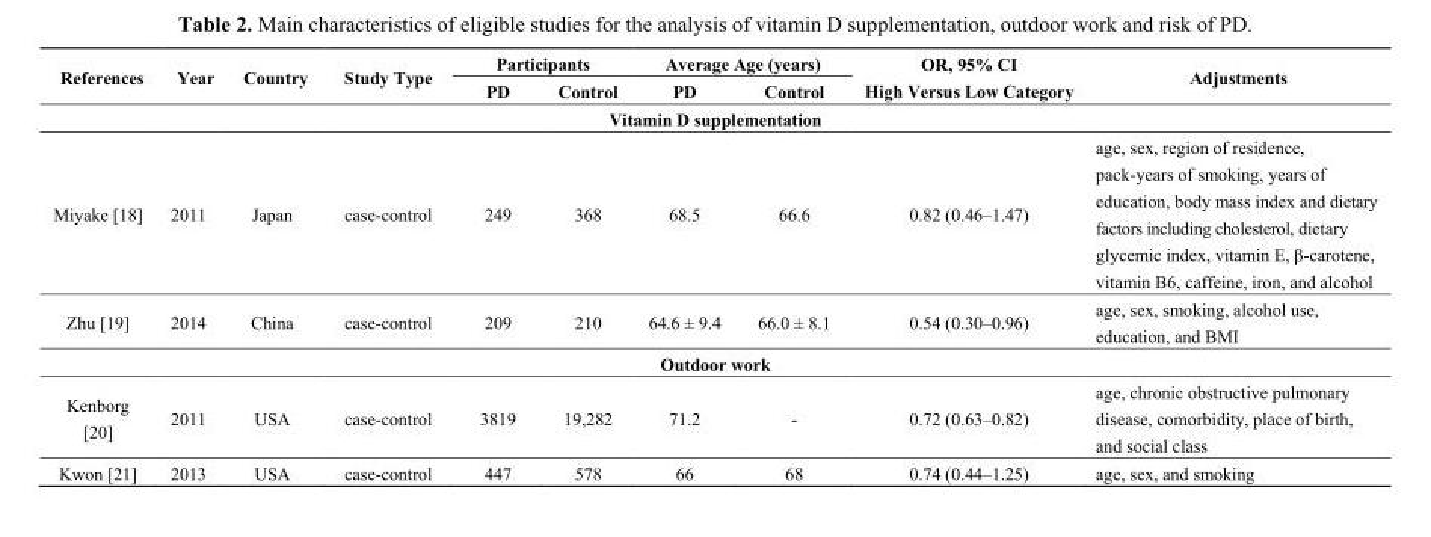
<table><thead><tr><td rowspan="2">References</td><td rowspan="2">Year</td><td rowspan="2">Country</td><td rowspan="2">Study Type</td><td colspan="2">Participants</td><td colspan="2">Average Age (years)</td><td rowspan="2">OR, 95% CI High Versus Low Category</td><td rowspan="2">Adjustments</td></tr><tr><td>PD</td><td>Control</td><td>PD</td><td>Control</td></tr></thead><tbody><tr><td colspan="10">Vitamin D supplementation</td></tr><tr><td>Miyake [18]</td><td>2011</td><td>Japan</td><td>case-control</td><td>249</td><td>368</td><td>68.5</td><td>66.6</td><td>0.82 (0.46–1.47)</td><td>age, sex, region of residence, pack-years of smoking, years of education, body mass index and dietary factors including cholesterol, dietary glycemic index, vitamin E, β-carotene, vitamin B6, caffeine, iron, and alcohol</td></tr><tr><td>Zhu [19]</td><td>2014</td><td>China</td><td>case-control</td><td>209</td><td>210</td><td>64.6 ± 9.4</td><td>66.0 ± 8.1</td><td>0.54 (0.30–0.96)</td><td>age, sex, smoking, alcohol use, education, and BMI</td></tr><tr><td colspan="10">Outdoor work</td></tr><tr><td>Kenborg [20]</td><td>2011</td><td>USA</td><td>case-control</td><td>3819</td><td>19,282</td><td>71.2</td><td>-</td><td>0.72 (0.63–0.82)</td><td>age, chronic obstructive pulmonary disease, comorbidity, place of birth, and social class</td></tr><tr><td>Kwon [21]</td><td>2013</td><td>USA</td><td>case-control</td><td>447</td><td>578</td><td>66</td><td>68</td><td>0.74 (0.44–1.25)</td><td>age, sex, and smoking</td></tr></tbody></table>